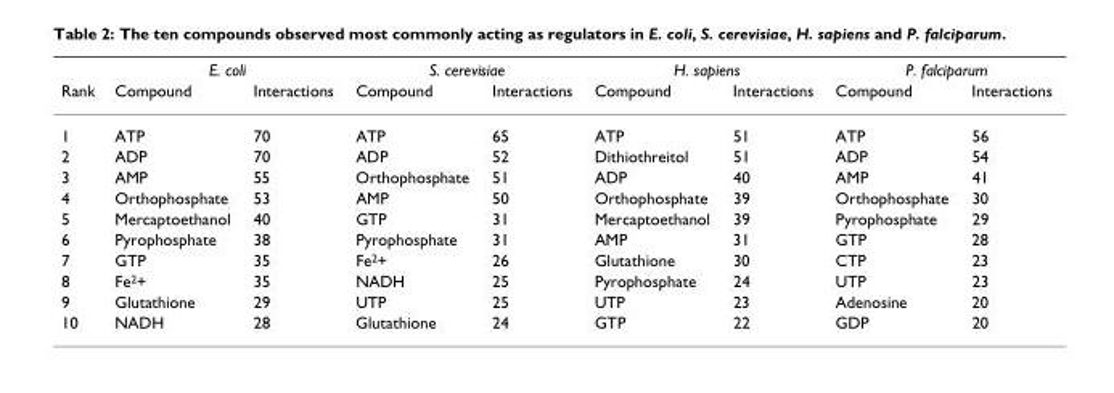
<table><thead><tr><td rowspan="2">Rank</td><td colspan="2">E. coli</td><td colspan="2">S. cerevisiae</td><td colspan="2">H. sapiens</td><td colspan="2">P. falciparum</td></tr><tr><td>Compound</td><td>Interactions</td><td>Compound</td><td>Interactions</td><td>Compound</td><td>Interactions</td><td>Compound</td><td>Interactions</td></tr></thead><tbody><tr><td>1</td><td>ATP</td><td>70</td><td>ATP</td><td>65</td><td>ATP</td><td>51</td><td>ATP</td><td>56</td></tr><tr><td>2</td><td>ADP</td><td>70</td><td>ADP</td><td>52</td><td>Dithiothreitol</td><td>51</td><td>ADP</td><td>54</td></tr><tr><td>3</td><td>AMP</td><td>55</td><td>Orthophosphate</td><td>51</td><td>ADP</td><td>40</td><td>AMP</td><td>41</td></tr><tr><td>4</td><td>Orthophosphate</td><td>53</td><td>AMP</td><td>50</td><td>Orthophosphate</td><td>39</td><td>Orthophosphate</td><td>30</td></tr><tr><td>5</td><td>Mercaptoethanol</td><td>40</td><td>GTP</td><td>31</td><td>Mercaptoethanol</td><td>39</td><td>Pyrophosphate</td><td>29</td></tr><tr><td>6</td><td>Pyrophosphate</td><td>38</td><td>Pyrophosphate</td><td>31</td><td>AMP</td><td>31</td><td>GTP</td><td>28</td></tr><tr><td>7</td><td>GTP</td><td>35</td><td>Fe<sup>2</sup>+</td><td>26</td><td>Glutathione</td><td>30</td><td>CTP</td><td>23</td></tr><tr><td>8</td><td>Fe<sup>2</sup>+</td><td>35</td><td>NADH</td><td>25</td><td>Pyrophosphate</td><td>24</td><td>UTP</td><td>23</td></tr><tr><td>9</td><td>Glutathione</td><td>29</td><td>UTP</td><td>25</td><td>UTP</td><td>23</td><td>Adenosine</td><td>20</td></tr><tr><td>10</td><td>NADH</td><td>28</td><td>Glutathione</td><td>24</td><td>GTP</td><td>22</td><td>GDP</td><td>20</td></tr></tbody></table>